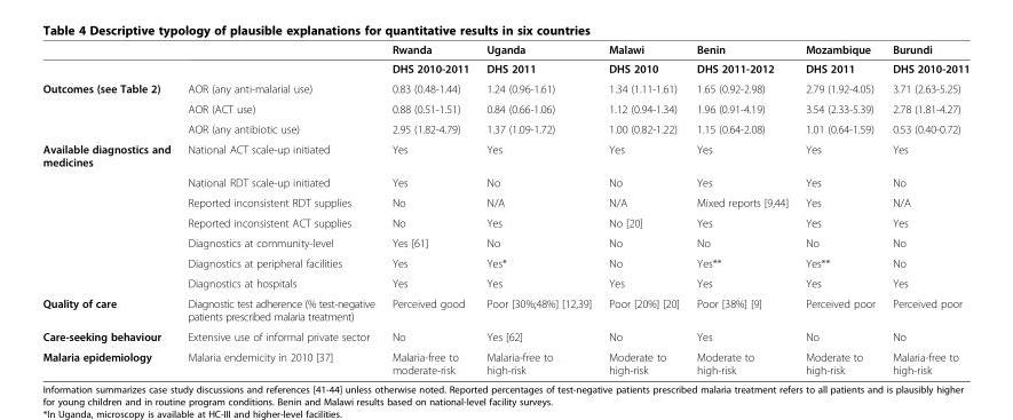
<table><thead><tr><td></td><td></td><td>Rwanda</td><td>Uganda</td><td>Malawi</td><td>Benin</td><td>Mozambique</td><td>Burundi</td></tr></thead><tbody><tr><td></td><td></td><td>DHS 2010-2011</td><td>DHS 2011</td><td>DHS 2010</td><td>DHS 2011-2012</td><td>DHS 2011</td><td>DHS 2010-2011</td></tr><tr><td rowspan="3">Outcomes (see Table 2)</td><td>AOR (any anti-malarial use)</td><td>0.83 (0.48-1.44)</td><td>1.24 (0.96-1.61)</td><td>1.34 (1.11-1.61)</td><td>1.65 (0.92-2.98)</td><td>2.79 (1.92-4.05)</td><td>3.71 (2.63-5.25)</td></tr><tr><td>AOR (ACT use)</td><td>0.88 (0.51-1.51)</td><td>0.84 (0.66-1.06)</td><td>1.12 (0.94-1.34)</td><td>1.96 (0.91-4.19)</td><td>3.54 (2.33-5.39)</td><td>2.78 (1.81-4.27)</td></tr><tr><td>AOR (any antibiotic use)</td><td>2.95 (1.82-4.79)</td><td>1.37 (1.09-1.72)</td><td>1.00 (0.82-1.22)</td><td>1.15 (0.64-2.08)</td><td>1.01 (0.64-1.59)</td><td>0.53 (0.40-0.72)</td></tr><tr><td rowspan="7">Available diagnostics and medicines</td><td>National ACT scale-up initiated</td><td>Yes</td><td>Yes</td><td>Yes</td><td>Yes</td><td>Yes</td><td>Yes</td></tr><tr><td>National RDT scale-up initiated</td><td>Yes</td><td>No</td><td>No</td><td>Yes</td><td>Yes</td><td>No</td></tr><tr><td>Reported inconsistent RDT supplies</td><td>No</td><td>N/A</td><td>N/A</td><td>Mixed reports [9,44]</td><td>Yes</td><td>N/A</td></tr><tr><td>Reported inconsistent ACT supplies</td><td>No</td><td>Yes</td><td>No [20]</td><td>Yes</td><td>Yes</td><td>Yes</td></tr><tr><td>Diagnostics at community-level</td><td>Yes [61]</td><td>No</td><td>No</td><td>No</td><td>No</td><td>No</td></tr><tr><td>Diagnostics at peripheral facilities</td><td>Yes</td><td>Yes*</td><td>No</td><td>Yes**</td><td>Yes**</td><td>No</td></tr><tr><td>Diagnostics at hospitals</td><td>Yes</td><td>Yes</td><td>Yes</td><td>Yes</td><td>Yes</td><td>Yes</td></tr><tr><td>Quality of care</td><td>Diagnostic test adherence (% test-negative patients prescribed malaria treatment)</td><td>Perceived good</td><td>Poor [30%;48%] [12,39]</td><td>Poor [20%] [20]</td><td>Poor [38%] [9]</td><td>Perceived poor</td><td>Perceived poor</td></tr><tr><td>Care-seeking behaviour</td><td>Extensive use of informal private sector</td><td>No</td><td>Yes [62]</td><td>No</td><td>Yes</td><td>No</td><td>No</td></tr><tr><td>Malaria epidemiology</td><td>Malaria endemicity in 2010 [37]</td><td>Malaria-free to moderate-risk</td><td>Malaria-free to high-risk</td><td>Moderate to high-risk</td><td>Moderate to high-risk</td><td>Moderate to high-risk</td><td>Malaria-free to high-risk</td></tr></tbody></table>